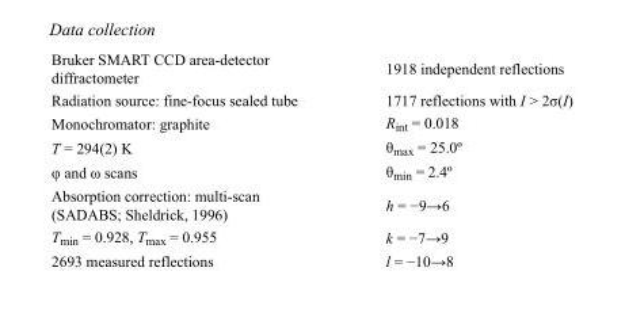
<table><tbody><tr><td>Bruker SMART CCD area-detector diffractometer</td><td>1918 independent reflections</td></tr><tr><td>Radiation source: fine-focus sealed tube</td><td>1717 reflections with I &gt; 2σ(I)</td></tr><tr><td>Monochromator: graphite</td><td>R<sub>int</sub> = 0.018</td></tr><tr><td>T = 294(2) K</td><td>θ<sub>max</sub> = 25.0º</td></tr><tr><td>φ and ω scans</td><td>θ<sub>min</sub> = 2.4º</td></tr><tr><td>Absorption correction: multi-scan (SADABS; Sheldrick, 1996)</td><td>h = −9→6</td></tr><tr><td>T<sub>min</sub> = 0.928, T<sub>max</sub> = 0.955</td><td>k = −7→9</td></tr><tr><td>2693 measured reflections</td><td>l = −10→8</td></tr></tbody></table>